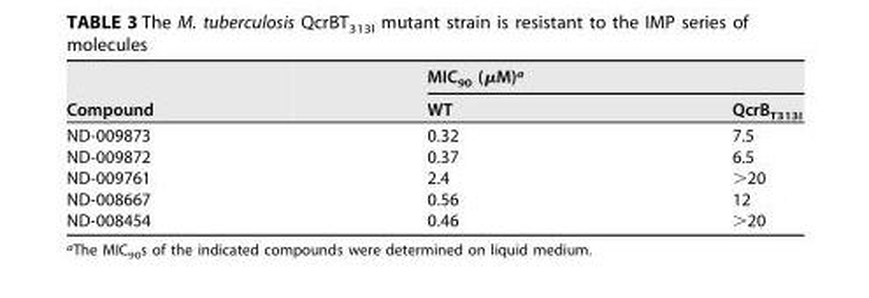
<table><thead><tr><td rowspan="2">Compound</td><td colspan="2">MIC<sub>90</sub> (μM)<sup>a</sup></td></tr><tr><td>WT</td><td>QcrB<sub>T313I</sub></td></tr></thead><tbody><tr><td>ND-009873</td><td>0.32</td><td>7.5</td></tr><tr><td>ND-009872</td><td>0.37</td><td>6.5</td></tr><tr><td>ND-009761</td><td>2.4</td><td>&gt;20</td></tr><tr><td>ND-008667</td><td>0.56</td><td>12</td></tr><tr><td>ND-008454</td><td>0.46</td><td>&gt;20</td></tr></tbody></table>